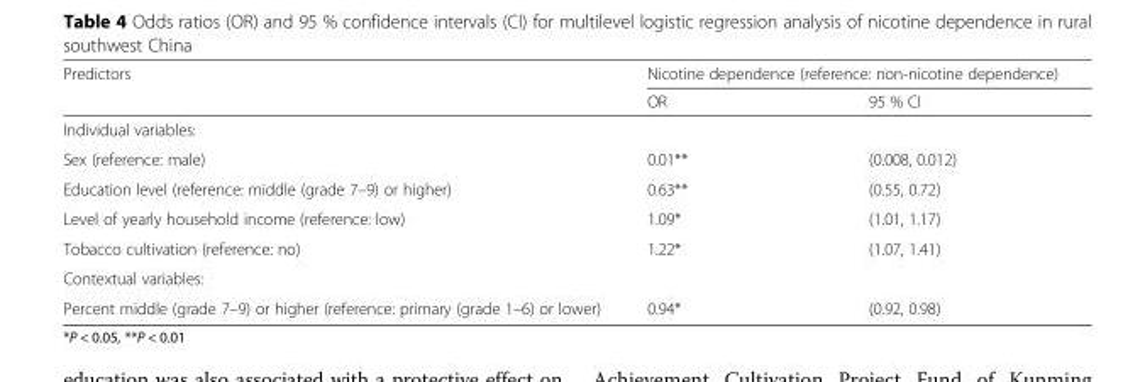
<table><thead><tr><td rowspan="2">Predictors</td><td colspan="2">Nicotine dependence (reference: non-nicotine dependence)</td></tr><tr><td>OR</td><td>95 % CI</td></tr></thead><tbody><tr><td colspan="3">Individual variables:</td></tr><tr><td>Sex (reference: male)</td><td>0.01**</td><td>(0.008, 0.012)</td></tr><tr><td>Education level (reference: middle (grade 7–9) or higher)</td><td>0.63**</td><td>(0.55, 0.72)</td></tr><tr><td>Level of yearly household income (reference: low)</td><td>1.09*</td><td>(1.01, 1.17)</td></tr><tr><td>Tobacco cultivation (reference: no)</td><td>1.22*</td><td>(1.07, 1.41)</td></tr><tr><td colspan="3">Contextual variables:</td></tr><tr><td>Percent middle (grade 7–9) or higher (reference: primary (grade 1–6) or lower)</td><td>0.94*</td><td>(0.92, 0.98)</td></tr></tbody></table>